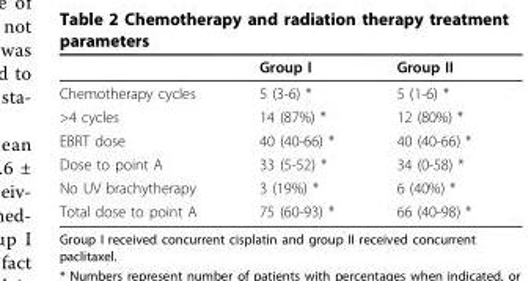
<table><thead><tr><td></td><td>Group I</td><td>Group II</td></tr></thead><tbody><tr><td>Chemotherapy cycles</td><td>5 (3-6) *</td><td>5 (1-6) *</td></tr><tr><td>&gt;4 cycles</td><td>14 (87%) *</td><td>12 (80%) *</td></tr><tr><td>EBRT dose</td><td>40 (40-66) *</td><td>40 (40-66) *</td></tr><tr><td>Dose to point A</td><td>33 (5-52) *</td><td>34 (0-58) *</td></tr><tr><td>No UV brachytherapy</td><td>3 (19%) *</td><td>6 (40%) *</td></tr><tr><td>Total dose to point A</td><td>75 (60-93) *</td><td>66 (40-98) *</td></tr></tbody></table>